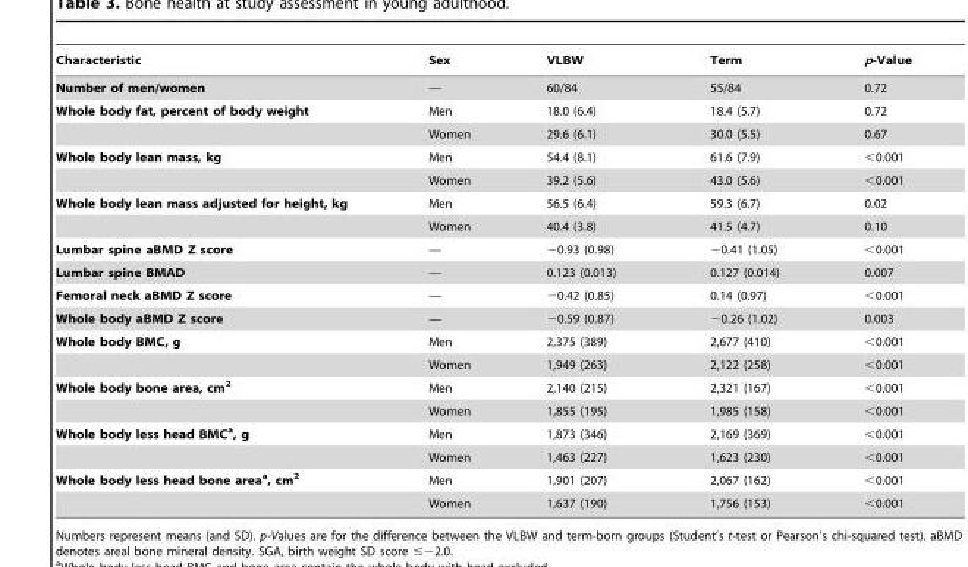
<table><thead><tr><td>Characteristic</td><td>Sex</td><td>VLBW</td><td>Term</td><td>p-Value</td></tr></thead><tbody><tr><td>Number of men/women</td><td>—</td><td>60/84</td><td>55/84</td><td>0.72</td></tr><tr><td rowspan="2">Whole body fat, percent of body weight</td><td>Men</td><td>18.0 (6.4)</td><td>18.4 (5.7)</td><td>0.72</td></tr><tr><td>Women</td><td>29.6 (6.1)</td><td>30.0 (5.5)</td><td>0.67</td></tr><tr><td rowspan="2">Whole body lean mass, kg</td><td>Men</td><td>54.4 (8.1)</td><td>61.6 (7.9)</td><td>&lt;0.001</td></tr><tr><td>Women</td><td>39.2 (5.6)</td><td>43.0 (5.6)</td><td>&lt;0.001</td></tr><tr><td rowspan="2">Whole body lean mass adjusted for height, kg</td><td>Men</td><td>56.5 (6.4)</td><td>59.3 (6.7)</td><td>0.02</td></tr><tr><td>Women</td><td>40.4 (3.8)</td><td>41.5 (4.7)</td><td>0.10</td></tr><tr><td>Lumbar spine aBMD Z score</td><td>—</td><td>−0.93 (0.98)</td><td>−0.41 (1.05)</td><td>&lt;0.001</td></tr><tr><td>Lumbar spine BMAD</td><td>—</td><td>0.123 (0.013)</td><td>0.127 (0.014)</td><td>0.007</td></tr><tr><td>Femoral neck aBMD Z score</td><td>—</td><td>−0.42 (0.85)</td><td>0.14 (0.97)</td><td>&lt;0.001</td></tr><tr><td>Whole body aBMD Z score</td><td>—</td><td>−0.59 (0.87)</td><td>−0.26 (1.02)</td><td>0.003</td></tr><tr><td rowspan="2">Whole body BMC, g</td><td>Men</td><td>2,375 (389)</td><td>2,677 (410)</td><td>&lt;0.001</td></tr><tr><td>Women</td><td>1,949 (263)</td><td>2,122 (258)</td><td>&lt;0.001</td></tr><tr><td rowspan="2">Whole body bone area, cm<sup>2</sup></td><td>Men</td><td>2,140 (215)</td><td>2,321 (167)</td><td>&lt;0.001</td></tr><tr><td>Women</td><td>1,855 (195)</td><td>1,985 (158)</td><td>&lt;0.001</td></tr><tr><td rowspan="2">Whole body less head BMCa, g</td><td>Men</td><td>1,873 (346)</td><td>2,169 (369)</td><td>&lt;0.001</td></tr><tr><td>Women</td><td>1,463 (227)</td><td>1,623 (230)</td><td>&lt;0.001</td></tr><tr><td rowspan="2">Whole body less head bone areaa, cm<sup>2</sup></td><td>Men</td><td>1,901 (207)</td><td>2,067 (162)</td><td>&lt;0.001</td></tr><tr><td>Women</td><td>1,637 (190)</td><td>1,756 (153)</td><td>&lt;0.001</td></tr></tbody></table>